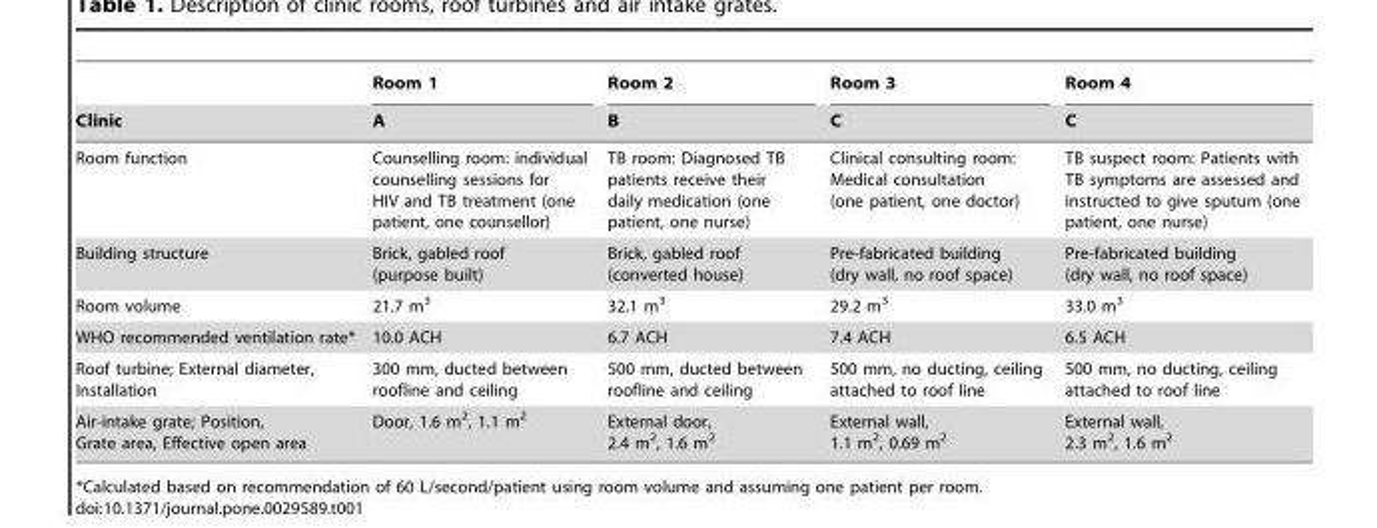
<table><thead><tr><td rowspan="2">Clinic</td><td rowspan="2">Room 1 A</td><td rowspan="2">Room 2 B</td><td rowspan="2">Room 3 C</td><td rowspan="2">Room 4 C</td></tr><tr></tr></thead><tbody><tr><td>Room function</td><td>Counselling room: individual counselling sessions for HIV and TB treatment (one patient, one counsellor)</td><td>TB room: Diagnosed TB patients receive their daily medication (one patient, one nurse)</td><td>Clinical consulting room: Medical consultation (one patient, one doctor)</td><td>TB suspect room: Patients with TB symptoms are assessed and instructed to give sputum (one patient, one nurse)</td></tr><tr><td>Building structure</td><td>Brick, gabled roof (purpose built)</td><td>Brick, gabled roof (converted house)</td><td>Pre-fabricated building (dry wall, no roof space)</td><td>Pre-fabricated building (dry wall, no roof space)</td></tr><tr><td>Room volume</td><td>21.7 m<sup>3</sup></td><td>32.1 m<sup>3</sup></td><td>29.2 m<sup>3</sup></td><td>33.0 m<sup>3</sup></td></tr><tr><td>WHO recommended ventilation rate*</td><td>10.0 ACH</td><td>6.7 ACH</td><td>7.4 ACH</td><td>6.5 ACH</td></tr><tr><td>Roof turbine; External diameter, Installation</td><td>300 mm, ducted between roofline and ceiling</td><td>500 mm, ducted between roofline and ceiling</td><td>500 mm, no ducting, ceiling attached to roof line</td><td>500 mm, no ducting, ceiling attached to roof line</td></tr><tr><td>Air-intake grate; Position, Grate area, Effective open area</td><td>Door, 1.6 m<sup>2</sup>, 1.1 m<sup>2</sup></td><td>External door, 2.4 m<sup>2</sup>, 1.6 m<sup>2</sup></td><td>External wall, 1.1 m<sup>2</sup>, 0.69 m<sup>2</sup></td><td>External wall, 2.3 m<sup>2</sup>, 1.6 m<sup>2</sup></td></tr></tbody></table>